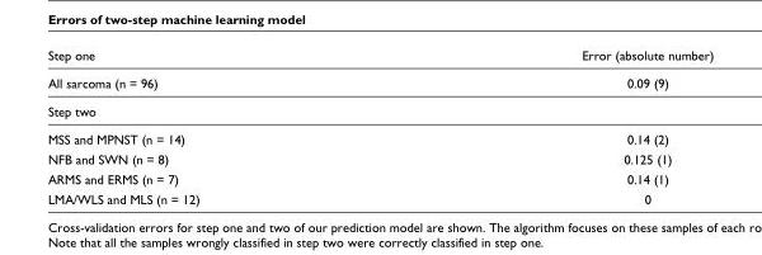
<table><thead><tr><td>Step one</td><td>Error (absolute number)</td></tr></thead><tbody><tr><td>All sarcoma (n = 96)</td><td>0.09 (9)</td></tr><tr><td colspan="2">Step two</td></tr><tr><td>MSS and MPNST (n = 14)</td><td>0.14 (2)</td></tr><tr><td>NFB and SWN (n = 8)</td><td>0.125 (1)</td></tr><tr><td>ARMS and ERMS (n = 7)</td><td>0.14 (1)</td></tr><tr><td>LMA/WLS and MLS (n = 12)</td><td>0</td></tr></tbody></table>